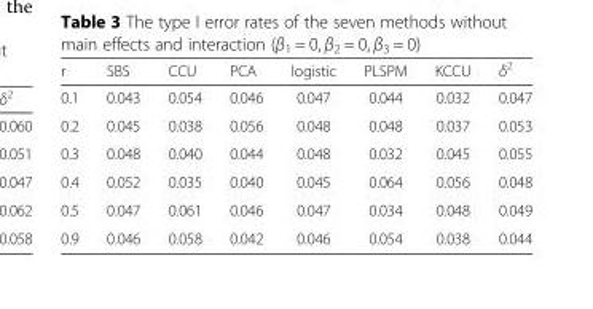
<table><thead><tr><td>r</td><td>SBS</td><td>CCU</td><td>PCA</td><td>logistic</td><td>PLSPM</td><td>KCCU</td><td>δ<sup>2</sup></td></tr></thead><tbody><tr><td>0.1</td><td>0.043</td><td>0.054</td><td>0.046</td><td>0.047</td><td>0.044</td><td>0.032</td><td>0.047</td></tr><tr><td>0.2</td><td>0.045</td><td>0.038</td><td>0.056</td><td>0.048</td><td>0.048</td><td>0.037</td><td>0.053</td></tr><tr><td>0.3</td><td>0.048</td><td>0.040</td><td>0.044</td><td>0.048</td><td>0.032</td><td>0.045</td><td>0.055</td></tr><tr><td>0.4</td><td>0.052</td><td>0.035</td><td>0.040</td><td>0.045</td><td>0.064</td><td>0.056</td><td>0.048</td></tr><tr><td>0.5</td><td>0.047</td><td>0.061</td><td>0.046</td><td>0.047</td><td>0.034</td><td>0.048</td><td>0.049</td></tr><tr><td>0.9</td><td>0.046</td><td>0.058</td><td>0.042</td><td>0.046</td><td>0.054</td><td>0.038</td><td>0.044</td></tr></tbody></table>